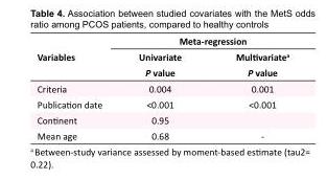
<table><tbody><tr><td rowspan="3">Variables</td><td colspan="2">Meta-regression</td></tr><tr><td>Univariate</td><td>Multivariate<sup>a</sup></td></tr><tr><td>P value</td><td>P value</td></tr><tr><td>Criteria</td><td>0.004</td><td>0.001</td></tr><tr><td>Publication date</td><td>&lt;0.001</td><td>&lt;0.001</td></tr><tr><td>Continent</td><td>0.95</td><td></td></tr><tr><td>Mean age</td><td>0.68</td><td>-</td></tr></tbody></table>